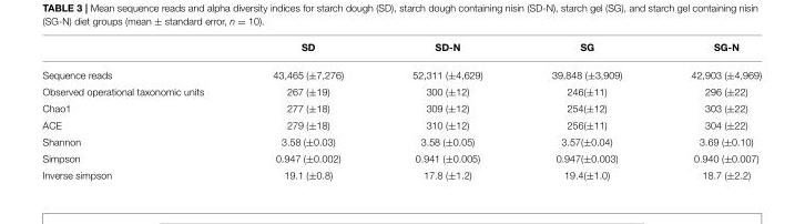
<table><thead><tr><td></td><td>SD</td><td>SD-N</td><td>SG</td><td>SG-N</td></tr></thead><tbody><tr><td>Sequence reads</td><td>43,465 (±7,276)</td><td>52,311 (±4,629)</td><td>39,848 (±3,909)</td><td>42,903 (±4,969)</td></tr><tr><td>Observed operational taxonomic units</td><td>267 (±19)</td><td>300 (±12)</td><td>246(±11)</td><td>296 (±22)</td></tr><tr><td>Chao1</td><td>277 (±18)</td><td>309 (±12)</td><td>254(±12)</td><td>303 (±22)</td></tr><tr><td>ACE</td><td>279 (±18)</td><td>310 (±12)</td><td>256(±11)</td><td>304 (±22)</td></tr><tr><td>Shannon</td><td>3.58 (±0.03)</td><td>3.58 (±0.05)</td><td>3.57(±0.04)</td><td>3.69 (±0.10)</td></tr><tr><td>Simpson</td><td>0.947 (±0.002)</td><td>0.941 (±0.005)</td><td>0.947(±0.003)</td><td>0.940 (±0.007)</td></tr><tr><td>Inverse simpson</td><td>19.1 (±0.8)</td><td>17.8 (±1.2)</td><td>19.4(±1.0)</td><td>18.7 (±2.2)</td></tr></tbody></table>